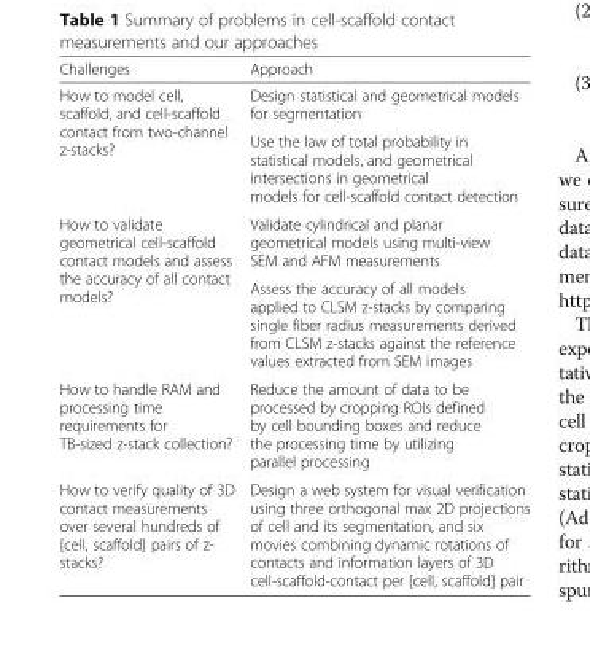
<table><thead><tr><td>Challenges</td><td>Approach</td></tr></thead><tbody><tr><td rowspan="2">How to model cell, scaffold, and cell-scaffold contact from two-channel z-stacks?</td><td>Design statistical and geometrical models for segmentation</td></tr><tr><td>Use the law of total probability in statistical models, and geometrical intersections in geometrical models for cell-scaffold contact detection</td></tr><tr><td rowspan="2">How to validate geometrical cell-scaffold contact models and assess the accuracy of all contact models?</td><td>Validate cylindrical and planar geometrical models using multi-view SEM and AFM measurements</td></tr><tr><td>Assess the accuracy of all models applied to CLSM z-stacks by comparing single fiber radius measurements derived from CLSM z-stacks against the reference values extracted from SEM images</td></tr><tr><td>How to handle RAM and processing time requirements for TB-sized z-stack collection?</td><td>Reduce the amount of data to be processed by cropping ROIs defined by cell bounding boxes and reduce the processing time by utilizing parallel processing</td></tr><tr><td>How to verify quality of 3D contact measurements over several hundreds of [cell, scaffold] pairs of z- stacks?</td><td>Design a web system for visual verification using three orthogonal max 2D projections of cell and its segmentation, and six movies combining dynamic rotations of contacts and information layers of 3D cell-scaffold-contact per [cell, scaffold] pair</td></tr></tbody></table>